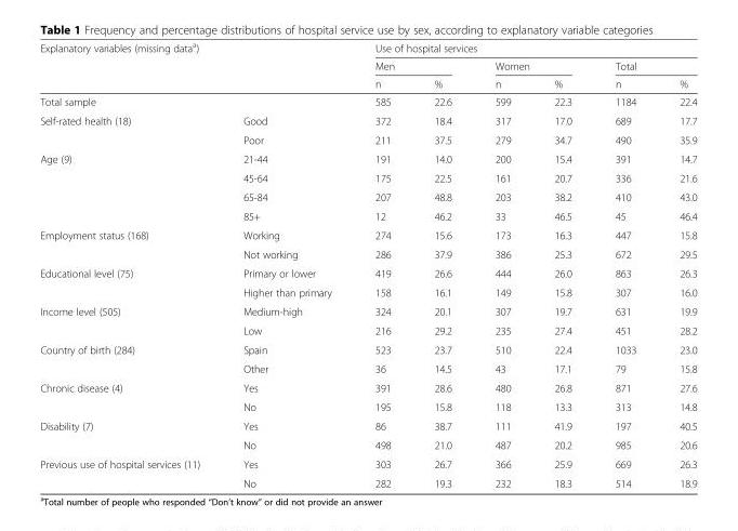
<table><thead><tr><td rowspan="3" colspan="2">Explanatory variables (missing data<sup>a</sup>)</td><td colspan="6">Use of hospital services</td></tr><tr><td colspan="2">Men</td><td colspan="2">Women</td><td colspan="2">Total</td></tr><tr><td rowspan="2">n 585</td><td rowspan="2">% 22.6</td><td rowspan="2">n 599</td><td rowspan="2">% 22.3</td><td rowspan="2">n 1184</td><td rowspan="2">% 22.4</td></tr><tr><td>Total sample</td><td></td></tr></thead><tbody><tr><td rowspan="2">Self-rated health (18)</td><td>Good</td><td>372</td><td>18.4</td><td>317</td><td>17.0</td><td>689</td><td>17.7</td></tr><tr><td>Poor</td><td>211</td><td>37.5</td><td>279</td><td>34.7</td><td>490</td><td>35.9</td></tr><tr><td rowspan="4">Age (9)</td><td>21-44</td><td>191</td><td>14.0</td><td>200</td><td>15.4</td><td>391</td><td>14.7</td></tr><tr><td>45-64</td><td>175</td><td>22.5</td><td>161</td><td>20.7</td><td>336</td><td>21.6</td></tr><tr><td>65-84</td><td>207</td><td>48.8</td><td>203</td><td>38.2</td><td>410</td><td>43.0</td></tr><tr><td>85+</td><td>12</td><td>46.2</td><td>33</td><td>46.5</td><td>45</td><td>46.4</td></tr><tr><td rowspan="2">Employment status (168)</td><td>Working</td><td>274</td><td>15.6</td><td>173</td><td>16.3</td><td>447</td><td>15.8</td></tr><tr><td>Not working</td><td>286</td><td>37.9</td><td>386</td><td>25.3</td><td>672</td><td>29.5</td></tr><tr><td rowspan="2">Educational level (75)</td><td>Primary or lower</td><td>419</td><td>26.6</td><td>444</td><td>26.0</td><td>863</td><td>26.3</td></tr><tr><td>Higher than primary</td><td>158</td><td>16.1</td><td>149</td><td>15.8</td><td>307</td><td>16.0</td></tr><tr><td rowspan="2">Income level (505)</td><td>Medium-high</td><td>324</td><td>20.1</td><td>307</td><td>19.7</td><td>631</td><td>19.9</td></tr><tr><td>Low</td><td>216</td><td>29.2</td><td>235</td><td>27.4</td><td>451</td><td>28.2</td></tr><tr><td rowspan="2">Country of birth (284)</td><td>Spain</td><td>523</td><td>23.7</td><td>510</td><td>22.4</td><td>1033</td><td>23.0</td></tr><tr><td>Other</td><td>36</td><td>14.5</td><td>43</td><td>17.1</td><td>79</td><td>15.8</td></tr><tr><td rowspan="2">Chronic disease (4)</td><td>Yes</td><td>391</td><td>28.6</td><td>480</td><td>26.8</td><td>871</td><td>27.6</td></tr><tr><td>No</td><td>195</td><td>15.8</td><td>118</td><td>13.3</td><td>313</td><td>14.8</td></tr><tr><td rowspan="2">Disability (7)</td><td>Yes</td><td>86</td><td>38.7</td><td>111</td><td>41.9</td><td>197</td><td>40.5</td></tr><tr><td>No</td><td>498</td><td>21.0</td><td>487</td><td>20.2</td><td>985</td><td>20.6</td></tr><tr><td rowspan="2">Previous use of hospital services (11)</td><td>Yes</td><td>303</td><td>26.7</td><td>366</td><td>25.9</td><td>669</td><td>26.3</td></tr><tr><td>No</td><td>282</td><td>19.3</td><td>232</td><td>18.3</td><td>514</td><td>18.9</td></tr></tbody></table>